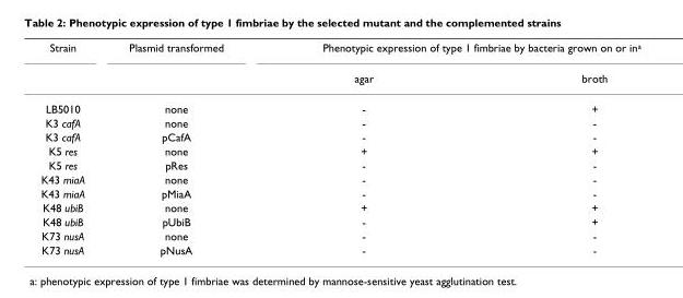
<table><thead><tr><td rowspan="2">Strain</td><td rowspan="2">Plasmid transformed</td><td colspan="2">Phenotypic expression of type 1 fimbriae by bacteria grown on or in<sup>a</sup></td></tr><tr><td>agar</td><td>broth</td></tr></thead><tbody><tr><td>LB5010</td><td>none</td><td>-</td><td>+</td></tr><tr><td>K3 cafA</td><td>none</td><td>-</td><td>-</td></tr><tr><td>K3 cafA</td><td>pCafA</td><td>-</td><td>-</td></tr><tr><td>K5 res</td><td>none</td><td>+</td><td>+</td></tr><tr><td>K5 res</td><td>pRes</td><td>-</td><td>-</td></tr><tr><td>K43 miaA</td><td>none</td><td>-</td><td>-</td></tr><tr><td>K43 miaA</td><td>pMiaA</td><td>-</td><td>-</td></tr><tr><td>K48 ubiB</td><td>none</td><td>+</td><td>+</td></tr><tr><td>K48 ubiB</td><td>pUbiB</td><td>-</td><td>+</td></tr><tr><td>K73 nusA</td><td>none</td><td>-</td><td>-</td></tr><tr><td>K73 nusA</td><td>pNusA</td><td>-</td><td>-</td></tr></tbody></table>